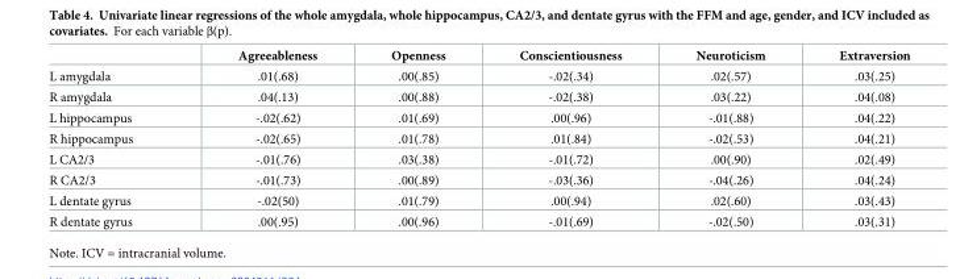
<table><thead><tr><td></td><td>Agreeableness</td><td>Openness</td><td>Conscientiousness</td><td>Neuroticism</td><td>Extraversion</td></tr></thead><tbody><tr><td>L amygdala</td><td>.01(.68)</td><td>.00(.85)</td><td>-.02(.34)</td><td>.02(.57)</td><td>.03(.25)</td></tr><tr><td>R amygdala</td><td>.04(.13)</td><td>.00(.88)</td><td>-.02(.38)</td><td>.03(.22)</td><td>.04(.08)</td></tr><tr><td>L hippocampus</td><td>-.02(.62)</td><td>.01(.69)</td><td>.00(.96)</td><td>-.01(.88)</td><td>.04(.22)</td></tr><tr><td>R hippocampus</td><td>-.02(.65)</td><td>.01(.78)</td><td>.01(.84)</td><td>-.02(.53)</td><td>.04(.21)</td></tr><tr><td>L CA2/3</td><td>-.01(.76)</td><td>.03(.38)</td><td>-.01(.72)</td><td>.00(.90)</td><td>.02(.49)</td></tr><tr><td>R CA2/3</td><td>-.01(.73)</td><td>.00(.89)</td><td>-.03(.36)</td><td>-.04(.26)</td><td>.04(.24)</td></tr><tr><td>L dentate gyrus</td><td>-.02(50)</td><td>.01(.79)</td><td>.00(.94)</td><td>.02(.60)</td><td>.03(.43)</td></tr><tr><td>R dentate gyrus</td><td>.00(.95)</td><td>.00(.96)</td><td>-.01(.69)</td><td>-.02(.50)</td><td>.03(.31)</td></tr></tbody></table>